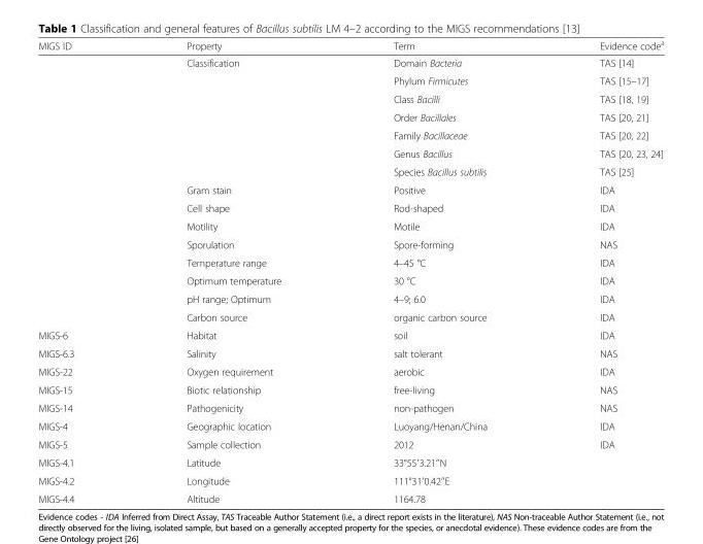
<table><thead><tr><td>MIGS ID</td><td>Property</td><td>Term</td><td>Evidence code<sup>a</sup></td></tr></thead><tbody><tr><td></td><td>Classification</td><td>Domain Bacteria</td><td>TAS [14]</td></tr><tr><td></td><td></td><td>Phylum Firmicutes</td><td>TAS [15–17]</td></tr><tr><td></td><td></td><td>Class Bacilli</td><td>TAS [18, 19]</td></tr><tr><td></td><td></td><td>Order Bacillales</td><td>TAS [20, 21]</td></tr><tr><td></td><td></td><td>Family Bacillaceae</td><td>TAS [20, 22]</td></tr><tr><td></td><td></td><td>Genus Bacillus</td><td>TAS [20, 23, 24]</td></tr><tr><td></td><td></td><td>Species Bacillus subtilis</td><td>TAS [25]</td></tr><tr><td></td><td>Gram stain</td><td>Positive</td><td>IDA</td></tr><tr><td></td><td>Cell shape</td><td>Rod-shaped</td><td>IDA</td></tr><tr><td></td><td>Motility</td><td>Motile</td><td>IDA</td></tr><tr><td></td><td>Sporulation</td><td>Spore-forming</td><td>NAS</td></tr><tr><td></td><td>Temperature range</td><td>4–45 °C</td><td>IDA</td></tr><tr><td></td><td>Optimum temperature</td><td>30 °C</td><td>IDA</td></tr><tr><td></td><td>pH range; Optimum</td><td>4–9; 6.0</td><td>IDA</td></tr><tr><td></td><td>Carbon source</td><td>organic carbon source</td><td>IDA</td></tr><tr><td>MIGS-6</td><td>Habitat</td><td>soil</td><td>IDA</td></tr><tr><td>MIGS-6.3</td><td>Salinity</td><td>salt tolerant</td><td>NAS</td></tr><tr><td>MIGS-22</td><td>Oxygen requirement</td><td>aerobic</td><td>IDA</td></tr><tr><td>MIGS-15</td><td>Biotic relationship</td><td>free-living</td><td>NAS</td></tr><tr><td>MIGS-14</td><td>Pathogenicity</td><td>non-pathogen</td><td>NAS</td></tr><tr><td>MIGS-4</td><td>Geographic location</td><td>Luoyang/Henan/China</td><td>IDA</td></tr><tr><td>MIGS-5</td><td>Sample collection</td><td>2012</td><td>IDA</td></tr><tr><td>MIGS-4.1</td><td>Latitude</td><td>33°55′3.21″N</td><td></td></tr><tr><td>MIGS-4.2</td><td>Longitude</td><td>111°31′0.42″E</td><td></td></tr><tr><td>MIGS-4.4</td><td>Altitude</td><td>1164.78</td><td></td></tr></tbody></table>